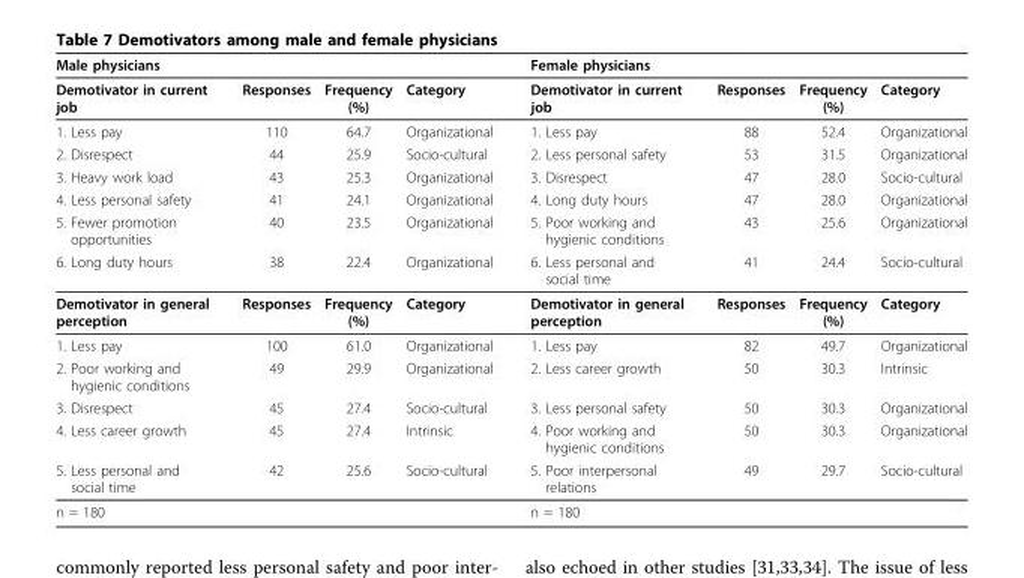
<table><thead><tr><td colspan="4">Male physicians</td><td colspan="4">Female physicians</td></tr><tr><td>Demotivator in current job</td><td>Responses</td><td>Frequency (%)</td><td>Category</td><td>Demotivator in current job</td><td>Responses</td><td>Frequency (%)</td><td>Category</td></tr></thead><tbody><tr><td>1. Less pay</td><td>110</td><td>64.7</td><td>Organizational</td><td>1. Less pay</td><td>88</td><td>52.4</td><td>Organizational</td></tr><tr><td>2. Disrespect</td><td>44</td><td>25.9</td><td>Socio-cultural</td><td>2. Less personal safety</td><td>53</td><td>31.5</td><td>Organizational</td></tr><tr><td>3. Heavy work load</td><td>43</td><td>25.3</td><td>Organizational</td><td>3. Disrespect</td><td>47</td><td>28.0</td><td>Socio-cultural</td></tr><tr><td>4. Less personal safety</td><td>41</td><td>24.1</td><td>Organizational</td><td>4. Long duty hours</td><td>47</td><td>28.0</td><td>Organizational</td></tr><tr><td>5. Fewer promotion opportunities</td><td>40</td><td>23.5</td><td>Organizational</td><td>5. Poor working and hygienic conditions</td><td>43</td><td>25.6</td><td>Organizational</td></tr><tr><td>6. Long duty hours</td><td>38</td><td>22.4</td><td>Organizational</td><td>6. Less personal and social time</td><td>41</td><td>24.4</td><td>Socio-cultural</td></tr><tr><td>Demotivator in general perception</td><td>Responses</td><td>Frequency (%)</td><td>Category</td><td>Demotivator in general perception</td><td>Responses</td><td>Frequency (%)</td><td>Category</td></tr><tr><td>1. Less pay</td><td>100</td><td>61.0</td><td>Organizational</td><td>1. Less pay</td><td>82</td><td>49.7</td><td>Organizational</td></tr><tr><td>2. Poor working and hygienic conditions</td><td>49</td><td>29.9</td><td>Organizational</td><td>2. Less career growth</td><td>50</td><td>30.3</td><td>Intrinsic</td></tr><tr><td>3. Disrespect</td><td>45</td><td>27.4</td><td>Socio-cultural</td><td>3. Less personal safety</td><td>50</td><td>30.3</td><td>Organizational</td></tr><tr><td>4. Less career growth</td><td>45</td><td>27.4</td><td>Intrinsic</td><td>4. Poor working and hygienic conditions</td><td>50</td><td>30.3</td><td>Organizational</td></tr><tr><td>5. Less personal and social time</td><td>42</td><td>25.6</td><td>Socio-cultural</td><td>5. Poor interpersonal relations</td><td>49</td><td>29.7</td><td>Socio-cultural</td></tr><tr><td>n = 180</td><td></td><td></td><td></td><td>n = 180</td><td></td><td></td><td></td></tr></tbody></table>